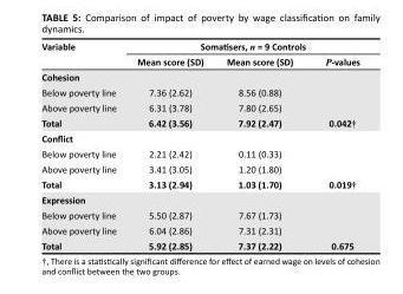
<table><thead><tr><td rowspan="2">Variable</td><td colspan="3">Somatisers, n = 9 Controls</td></tr><tr><td>Mean score (SD)</td><td>Mean score (SD)</td><td>P-values</td></tr></thead><tbody><tr><td colspan="4">Cohesion</td></tr><tr><td>Below poverty line</td><td>7.36 (2.62)</td><td>8.56 (0.88)</td><td></td></tr><tr><td>Above poverty line</td><td>6.31 (3.78)</td><td>7.80 (2.65)</td><td></td></tr><tr><td>Total</td><td>6.42 (3.56)</td><td>7.92 (2.47)</td><td>0.042†</td></tr><tr><td colspan="4">Conflict</td></tr><tr><td>Below poverty line</td><td>2.21 (2.42)</td><td>0.11 (0.33)</td><td></td></tr><tr><td>Above poverty line</td><td>3.41 (3.05)</td><td>1.20 (1.80)</td><td></td></tr><tr><td>Total</td><td>3.13 (2.94)</td><td>1.03 (1.70)</td><td>0.019†</td></tr><tr><td colspan="4">Expression</td></tr><tr><td>Below poverty line</td><td>5.50 (2.87)</td><td>7.67 (1.73)</td><td></td></tr><tr><td>Above poverty line</td><td>6.04 (2.86)</td><td>7.31 (2.31)</td><td></td></tr><tr><td>Total</td><td>5.92 (2.85)</td><td>7.37 (2.22)</td><td>0.675</td></tr></tbody></table>